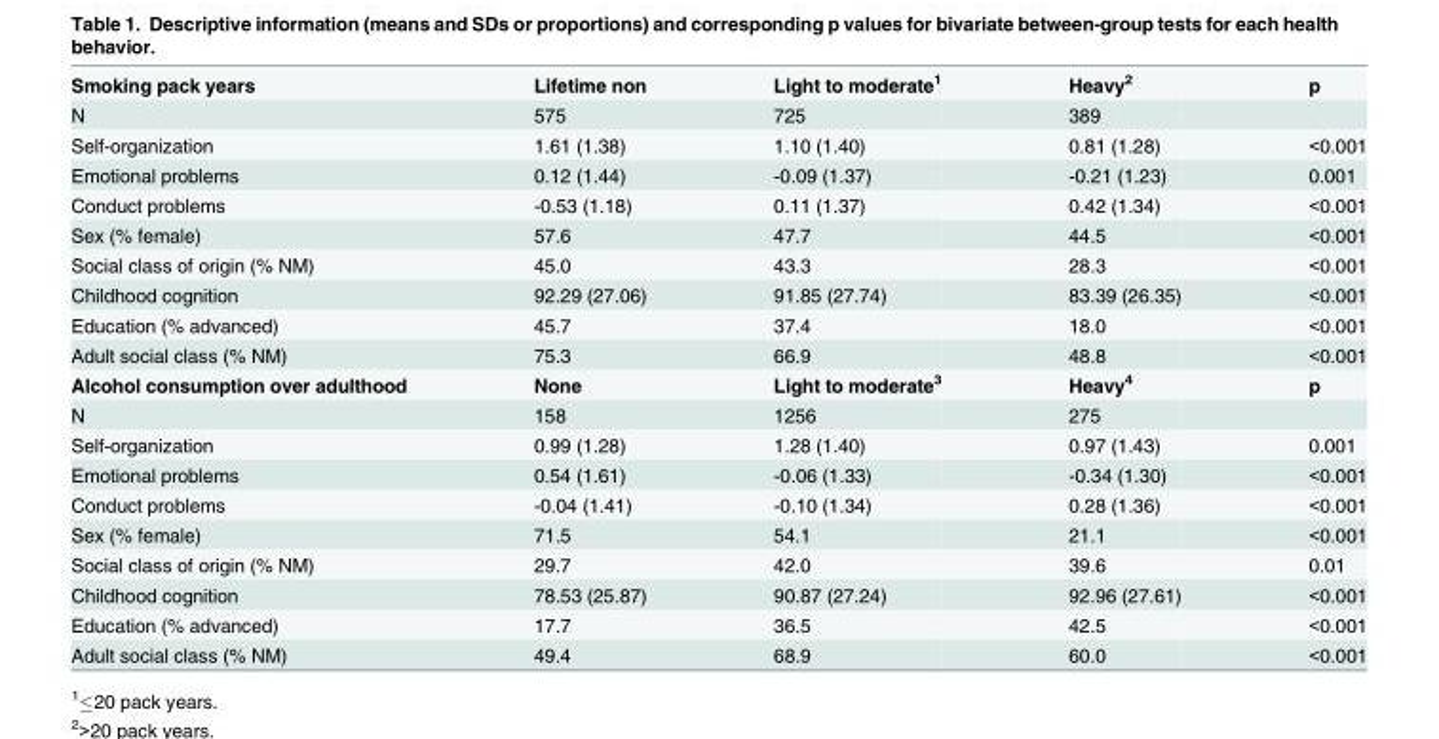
<table><tbody><tr><td>Smoking pack years</td><td>Lifetime non</td><td>Light to moderate<sup>1</sup></td><td>Heavy<sup>2</sup></td><td>p</td></tr><tr><td>N</td><td>575</td><td>725</td><td>389</td><td></td></tr><tr><td>Self-organization</td><td>1.61 (1.38)</td><td>1.10 (1.40)</td><td>0.81 (1.28)</td><td>&lt;0.001</td></tr><tr><td>Emotional problems</td><td>0.12 (1.44)</td><td>-0.09 (1.37)</td><td>-0.21 (1.23)</td><td>0.001</td></tr><tr><td>Conduct problems</td><td>-0.53 (1.18)</td><td>0.11 (1.37)</td><td>0.42 (1.34)</td><td>&lt;0.001</td></tr><tr><td>Sex (% female)</td><td>57.6</td><td>47.7</td><td>44.5</td><td>&lt;0.001</td></tr><tr><td>Social class of origin (% NM)</td><td>45.0</td><td>43.3</td><td>28.3</td><td>&lt;0.001</td></tr><tr><td>Childhood cognition</td><td>92.29 (27.06)</td><td>91.85 (27.74)</td><td>83.39 (26.35)</td><td>&lt;0.001</td></tr><tr><td>Education (% advanced)</td><td>45.7</td><td>37.4</td><td>18.0</td><td>&lt;0.001</td></tr><tr><td>Adult social class (% NM)</td><td>75.3</td><td>66.9</td><td>48.8</td><td>&lt;0.001</td></tr><tr><td>Alcohol consumption over adulthood</td><td>None</td><td>Light to moderate<sup>3</sup></td><td>Heavy<sup>4</sup></td><td>p</td></tr><tr><td>N</td><td>158</td><td>1256</td><td>275</td><td></td></tr><tr><td>Self-organization</td><td>0.99 (1.28)</td><td>1.28 (1.40)</td><td>0.97 (1.43)</td><td>0.001</td></tr><tr><td>Emotional problems</td><td>0.54 (1.61)</td><td>-0.06 (1.33)</td><td>-0.34 (1.30)</td><td>&lt;0.001</td></tr><tr><td>Conduct problems</td><td>-0.04 (1.41)</td><td>-0.10 (1.34)</td><td>0.28 (1.36)</td><td>&lt;0.001</td></tr><tr><td>Sex (% female)</td><td>71.5</td><td>54.1</td><td>21.1</td><td>&lt;0.001</td></tr><tr><td>Social class of origin (% NM)</td><td>29.7</td><td>42.0</td><td>39.6</td><td>0.01</td></tr><tr><td>Childhood cognition</td><td>78.53 (25.87)</td><td>90.87 (27.24)</td><td>92.96 (27.61)</td><td>&lt;0.001</td></tr><tr><td>Education (% advanced)</td><td>17.7</td><td>36.5</td><td>42.5</td><td>&lt;0.001</td></tr><tr><td>Adult social class (% NM)</td><td>49.4</td><td>68.9</td><td>60.0</td><td>&lt;0.001</td></tr></tbody></table>